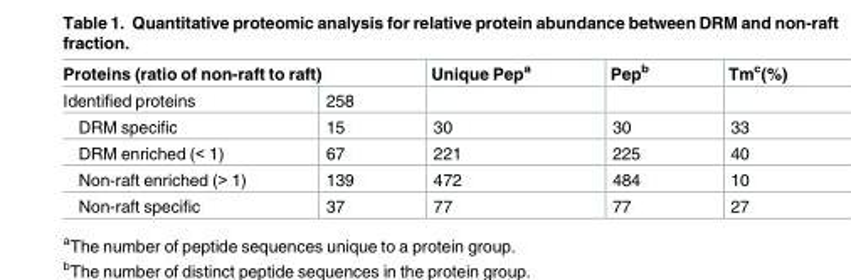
<table><thead><tr><td colspan="2">Proteins (ratio of non-raft to raft)</td><td rowspan="2">Unique Pep<sup>a</sup></td><td rowspan="2">Pep<sup>b</sup></td><td rowspan="2">Tm<sup>c</sup>(%)</td></tr><tr><td>Identified proteins</td><td>258</td></tr></thead><tbody><tr><td>DRM specific</td><td>15</td><td>30</td><td>30</td><td>33</td></tr><tr><td>DRM enriched (&lt; 1)</td><td>67</td><td>221</td><td>225</td><td>40</td></tr><tr><td>Non-raft enriched (&gt; 1)</td><td>139</td><td>472</td><td>484</td><td>10</td></tr><tr><td>Non-raft specific</td><td>37</td><td>77</td><td>77</td><td>27</td></tr></tbody></table>